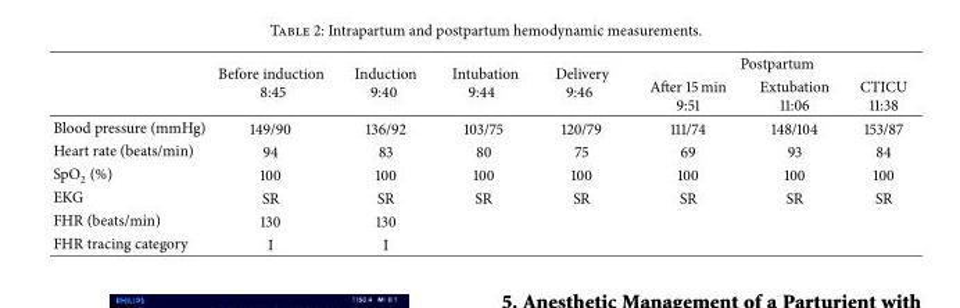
<table><thead><tr><td rowspan="2"></td><td rowspan="2">Before induction 8:45</td><td rowspan="2">Induction 9:40</td><td rowspan="2">Intubation 9:44</td><td rowspan="2">Delivery 9:46</td><td colspan="3">Postpartum</td></tr><tr><td>After 15 min 9:51</td><td>Extubation 11:06</td><td>CTICU 11:38</td></tr></thead><tbody><tr><td>Blood pressure (mmHg)</td><td>149/90</td><td>136/92</td><td>103/75</td><td>120/79</td><td>111/74</td><td>148/104</td><td>153/87</td></tr><tr><td>Heart rate (beats/min)</td><td>94</td><td>83</td><td>80</td><td>75</td><td>69</td><td>93</td><td>84</td></tr><tr><td>SpO<sub>2</sub> (%)</td><td>100</td><td>100</td><td>100</td><td>100</td><td>100</td><td>100</td><td>100</td></tr><tr><td>EKG</td><td>SR</td><td>SR</td><td>SR</td><td>SR</td><td>SR</td><td>SR</td><td>SR</td></tr><tr><td>FHR (beats/min)</td><td>130</td><td>130</td><td></td><td></td><td></td><td></td><td></td></tr><tr><td>FHR tracing category</td><td>I</td><td>I</td><td></td><td></td><td></td><td></td><td></td></tr></tbody></table>